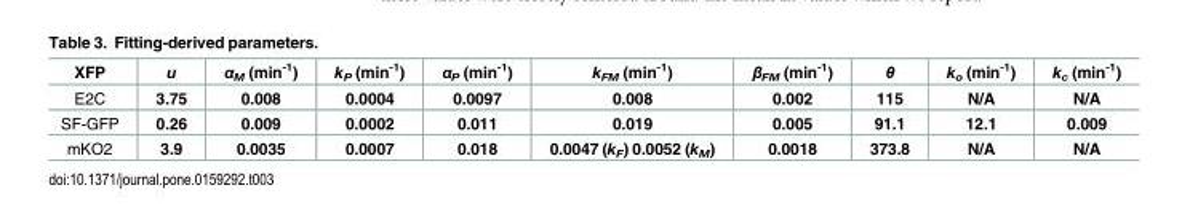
<table><thead><tr><td>XFP</td><td>u</td><td>α<sub>M</sub> (min<sup>-1</sup>)</td><td>k<sub>P</sub> (min<sup>-1</sup>)</td><td>α<sub>P</sub> (min<sup>-1</sup>)</td><td>k<sub>FM</sub> (min<sup>-1</sup>)</td><td>β<sub>FM</sub> (min<sup>-1</sup>)</td><td>θ</td><td>k<sub>o</sub> (min<sup>-1</sup>)</td><td>k<sub>c</sub> (min<sup>-1</sup>)</td></tr></thead><tbody><tr><td>E2C</td><td>3.75</td><td>0.008</td><td>0.0004</td><td>0.0097</td><td>0.008</td><td>0.002</td><td>115</td><td>N/A</td><td>N/A</td></tr><tr><td>SF-GFP</td><td>0.26</td><td>0.009</td><td>0.0002</td><td>0.011</td><td>0.019</td><td>0.005</td><td>91.1</td><td>12.1</td><td>0.009</td></tr><tr><td>mKO2</td><td>3.9</td><td>0.0035</td><td>0.0007</td><td>0.018</td><td>0.0047 (k<sub>F</sub>) 0.0052 (k<sub>M</sub>)</td><td>0.0018</td><td>373.8</td><td>N/A</td><td>N/A</td></tr></tbody></table>